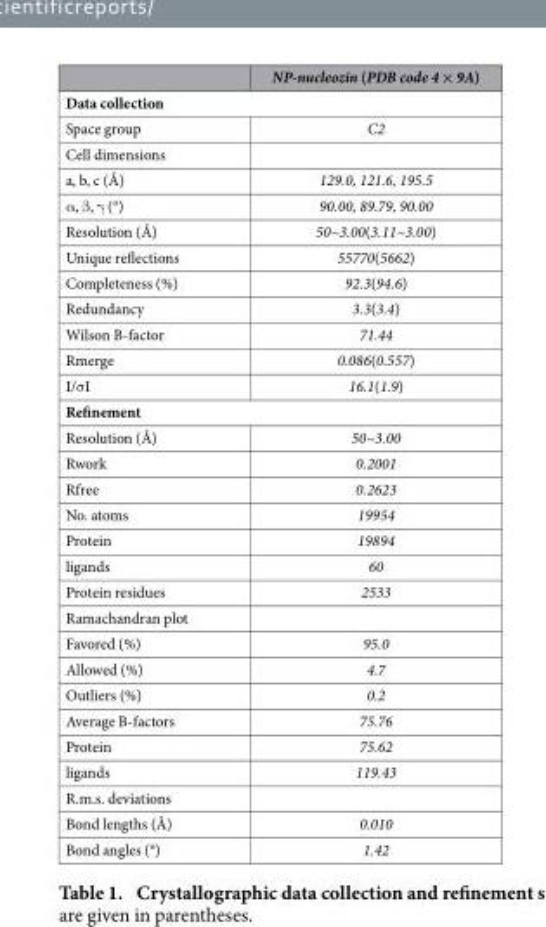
<table><thead><tr><td></td><td>NP-nucleozin (PDB code 4 × 9A)</td></tr></thead><tbody><tr><td colspan="2">Data collection</td></tr><tr><td>Space group</td><td>C2</td></tr><tr><td colspan="2">Cell dimensions</td></tr><tr><td>a, b, c (Å)</td><td>129.0, 121.6, 195.5</td></tr><tr><td>α , β , γ (°)</td><td>90.00, 89.79, 90.00</td></tr><tr><td>Resolution (Å)</td><td>50~3.00(3.11~3.00)</td></tr><tr><td>Unique reflections</td><td>55770(5662)</td></tr><tr><td>Completeness (%)</td><td>92.3(94.6)</td></tr><tr><td>Redundancy</td><td>3.3(3.4)</td></tr><tr><td>Wilson B-factor</td><td>71.44</td></tr><tr><td>Rmerge</td><td>0.086(0.557)</td></tr><tr><td>I/σ I</td><td>16.1(1.9)</td></tr><tr><td colspan="2">Refinement</td></tr><tr><td>Resolution (Å)</td><td>50~3.00</td></tr><tr><td>Rwork</td><td>0.2001</td></tr><tr><td>Rfree</td><td>0.2623</td></tr><tr><td>No. atoms</td><td>19954</td></tr><tr><td>Protein</td><td>19894</td></tr><tr><td>ligands</td><td>60</td></tr><tr><td>Protein residues</td><td>2533</td></tr><tr><td colspan="2">Ramachandran plot</td></tr><tr><td>Favored (%)</td><td>95.0</td></tr><tr><td>Allowed (%)</td><td>4.7</td></tr><tr><td>Outliers (%)</td><td>0.2</td></tr><tr><td>Average B-factors</td><td>75.76</td></tr><tr><td>Protein</td><td>75.62</td></tr><tr><td>ligands</td><td>119.43</td></tr><tr><td colspan="2">R.m.s. deviations</td></tr><tr><td>Bond lengths (Å)</td><td>0.010</td></tr><tr><td>Bond angles (°)</td><td>1.42</td></tr></tbody></table>